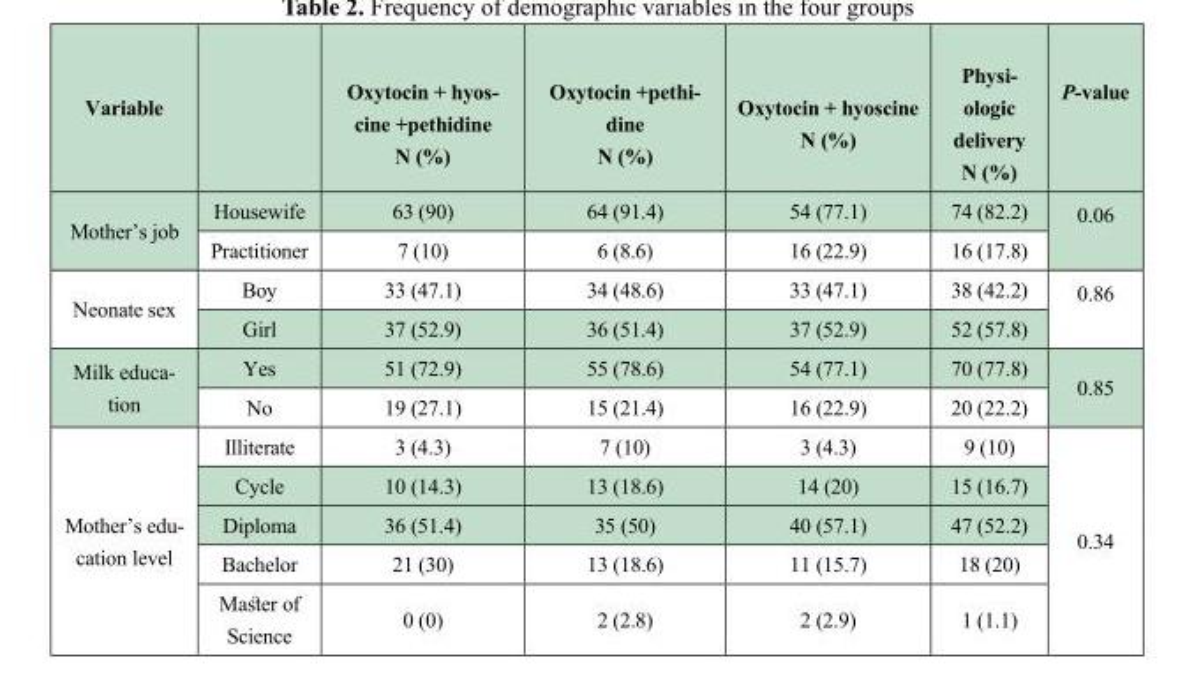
<table><thead><tr><td>Variable</td><td></td><td>Oxytocin + hyos- cine +pethidine N (%)</td><td>Oxytocin +pethi- dine N (%)</td><td>Oxytocin + hyoscine N (%)</td><td>Physi- ologic delivery N (%)</td><td>P-value</td></tr></thead><tbody><tr><td rowspan="2">Mother’s job</td><td>Housewife</td><td>63 (90)</td><td>64 (91.4)</td><td>54 (77.1)</td><td>74 (82.2)</td><td rowspan="2">0.06</td></tr><tr><td>Practitioner</td><td>7 (10)</td><td>6 (8.6)</td><td>16 (22.9)</td><td>16 (17.8)</td></tr><tr><td rowspan="2">Neonate sex</td><td>Boy</td><td>33 (47.1)</td><td>34 (48.6)</td><td>33 (47.1)</td><td>38 (42.2)</td><td rowspan="2">0.86</td></tr><tr><td>Girl</td><td>37 (52.9)</td><td>36 (51.4)</td><td>37 (52.9)</td><td>52 (57.8)</td></tr><tr><td rowspan="2">Milk educa- tion</td><td>Yes</td><td>51 (72.9)</td><td>55 (78.6)</td><td>54 (77.1)</td><td>70 (77.8)</td><td rowspan="2">0.85</td></tr><tr><td>No</td><td>19 (27.1)</td><td>15 (21.4)</td><td>16 (22.9)</td><td>20 (22.2)</td></tr><tr><td rowspan="5">Mother’s edu- cation level</td><td>Illiterate</td><td>3 (4.3)</td><td>7 (10)</td><td>3 (4.3)</td><td>9 (10)</td><td rowspan="5">0.34</td></tr><tr><td>Cycle</td><td>10 (14.3)</td><td>13 (18.6)</td><td>14 (20)</td><td>15 (16.7)</td></tr><tr><td>Diploma</td><td>36 (51.4)</td><td>35 (50)</td><td>40 (57.1)</td><td>47 (52.2)</td></tr><tr><td>Bachelor</td><td>21 (30)</td><td>13 (18.6)</td><td>11 (15.7)</td><td>18 (20)</td></tr><tr><td>Master of</td><td>0 (0)</td><td>2 (2.8)</td><td>2 (2.9)</td><td>1 (1.1)</td></tr></tbody></table>